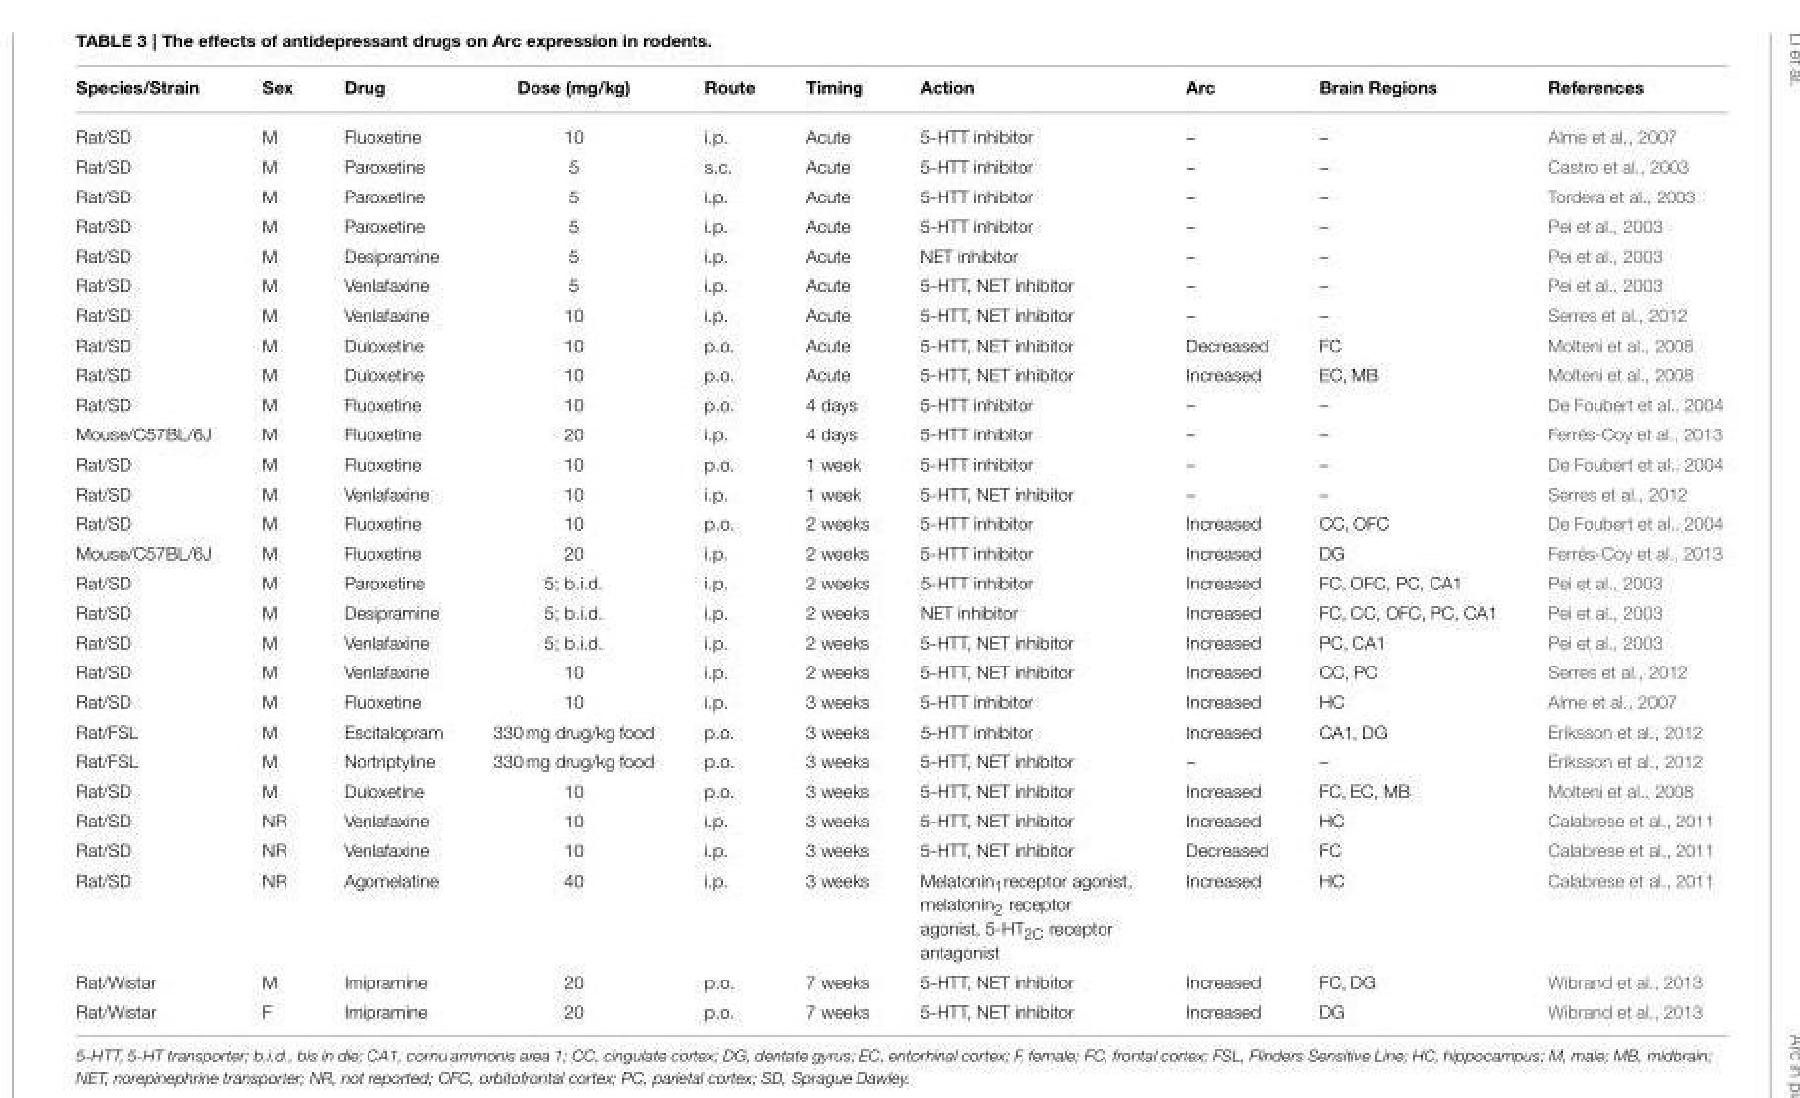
<table><thead><tr><td>Species/Strain</td><td>Sex</td><td>Drug</td><td>Dose (mg/kg)</td><td>Route</td><td>Timing</td><td>Action</td><td>Arc</td><td>Brain Regions</td><td>References</td></tr></thead><tbody><tr><td>Rat/SD</td><td>M</td><td>Fluoxetine</td><td>10</td><td>i.p.</td><td>Acute</td><td>5-HTT inhibitor</td><td>–</td><td>–</td><td>Alme et al., 2007</td></tr><tr><td>Rat/SD</td><td>M</td><td>Paroxetine</td><td>5</td><td>s.c.</td><td>Acute</td><td>5-HTT inhibitor</td><td>–</td><td>–</td><td>Castro et al., 2003</td></tr><tr><td>Rat/SD</td><td>M</td><td>Paroxetine</td><td>5</td><td>i.p.</td><td>Acute</td><td>5-HTT inhibitor</td><td>–</td><td>–</td><td>Tordera et al., 2003</td></tr><tr><td>Rat/SD</td><td>M</td><td>Paroxetine</td><td>5</td><td>i.p.</td><td>Acute</td><td>5-HTT inhibitor</td><td>–</td><td>–</td><td>Pei et al., 2003</td></tr><tr><td>Rat/SD</td><td>M</td><td>Desipramine</td><td>5</td><td>i.p.</td><td>Acute</td><td>NET inhibitor</td><td>–</td><td>–</td><td>Pei et al., 2003</td></tr><tr><td>Rat/SD</td><td>M</td><td>Venlafaxine</td><td>5</td><td>i.p.</td><td>Acute</td><td>5-HTT, NET inhibitor</td><td>–</td><td>–</td><td>Pei et al., 2003</td></tr><tr><td>Rat/SD</td><td>M</td><td>Venlafaxine</td><td>10</td><td>i.p.</td><td>Acute</td><td>5-HTT, NET inhibitor</td><td>–</td><td>–</td><td>Serres et al., 2012</td></tr><tr><td>Rat/SD</td><td>M</td><td>Duloxetine</td><td>10</td><td>p.o.</td><td>Acute</td><td>5-HTT, NET inhibitor</td><td>Decreased</td><td>FC</td><td>Molteni et al., 2008</td></tr><tr><td>Rat/SD</td><td>M</td><td>Duloxetine</td><td>10</td><td>p.o.</td><td>Acute</td><td>5-HTT, NET inhibitor</td><td>Increased</td><td>EC, MB</td><td>Molteni et al., 2008</td></tr><tr><td>Rat/SD</td><td>M</td><td>Fluoxetine</td><td>10</td><td>p.o.</td><td>4 days</td><td>5-HTT inhibitor</td><td>–</td><td>–</td><td>De Foubert et al., 2004</td></tr><tr><td>Mouse/C57BL/6J</td><td>M</td><td>Fluoxetine</td><td>20</td><td>i.p.</td><td>4 days</td><td>5-HTT inhibitor</td><td>–</td><td>–</td><td>Ferrés-Coy et al., 2013</td></tr><tr><td>Rat/SD</td><td>M</td><td>Fluoxetine</td><td>10</td><td>p.o.</td><td>1 week</td><td>5-HTT inhibitor</td><td>–</td><td>–</td><td>De Foubert et al., 2004</td></tr><tr><td>Rat/SD</td><td>M</td><td>Venlafaxine</td><td>10</td><td>i.p.</td><td>1 week</td><td>5-HTT, NET inhibitor</td><td>–</td><td>–</td><td>Serres et al., 2012</td></tr><tr><td>Rat/SD</td><td>M</td><td>Fluoxetine</td><td>10</td><td>p.o.</td><td>2 weeks</td><td>5-HTT inhibitor</td><td>Increased</td><td>CC, OFC</td><td>De Foubert et al., 2004</td></tr><tr><td>Mouse/C57BL/6J</td><td>M</td><td>Fluoxetine</td><td>20</td><td>i.p.</td><td>2 weeks</td><td>5-HTT inhibitor</td><td>Increased</td><td>DG</td><td>Ferrés-Coy et al., 2013</td></tr><tr><td>Rat/SD</td><td>M</td><td>Paroxetine</td><td>5; b.i.d.</td><td>i.p.</td><td>2 weeks</td><td>5-HTT inhibitor</td><td>Increased</td><td>FC, OFC, PC, CA1</td><td>Pei et al., 2003</td></tr><tr><td>Rat/SD</td><td>M</td><td>Desipramine</td><td>5; b.i.d.</td><td>i.p.</td><td>2 weeks</td><td>NET inhibitor</td><td>Increased</td><td>FC, CC, OFC, PC, CA1</td><td>Pei et al., 2003</td></tr><tr><td>Rat/SD</td><td>M</td><td>Venlafaxine</td><td>5; b.i.d.</td><td>i.p.</td><td>2 weeks</td><td>5-HTT, NET inhibitor</td><td>Increased</td><td>PC, CA1</td><td>Pei et al., 2003</td></tr><tr><td>Rat/SD</td><td>M</td><td>Venlafaxine</td><td>10</td><td>i.p.</td><td>2 weeks</td><td>5-HTT, NET inhibitor</td><td>Increased</td><td>CC, PC</td><td>Serres et al., 2012</td></tr><tr><td>Rat/SD</td><td>M</td><td>Fluoxetine</td><td>10</td><td>i.p.</td><td>3 weeks</td><td>5-HTT inhibitor</td><td>Increased</td><td>HC</td><td>Alme et al., 2007</td></tr><tr><td>Rat/FSL</td><td>M</td><td>Escitalopram</td><td>330 mg drug/kg food</td><td>p.o.</td><td>3 weeks</td><td>5-HTT inhibitor</td><td>Increased</td><td>CA1, DG</td><td>Eriksson et al., 2012</td></tr><tr><td>Rat/FSL</td><td>M</td><td>Nortriptyline</td><td>330 mg drug/kg food</td><td>p.o.</td><td>3 weeks</td><td>5-HTT, NET inhibitor</td><td>–</td><td>–</td><td>Eriksson et al., 2012</td></tr><tr><td>Rat/SD</td><td>M</td><td>Duloxetine</td><td>10</td><td>p.o.</td><td>3 weeks</td><td>5-HTT, NET inhibitor</td><td>Increased</td><td>FC, EC, MB</td><td>Molteni et al., 2008</td></tr><tr><td>Rat/SD</td><td>NR</td><td>Venlafaxine</td><td>10</td><td>i.p.</td><td>3 weeks</td><td>5-HTT, NET inhibitor</td><td>Increased</td><td>HC</td><td>Calabrese et al., 2011</td></tr><tr><td>Rat/SD</td><td>NR</td><td>Venlafaxine</td><td>10</td><td>i.p.</td><td>3 weeks</td><td>5-HTT, NET inhibitor</td><td>Decreased</td><td>FC</td><td>Calabrese et al., 2011</td></tr><tr><td>Rat/SD</td><td>NR</td><td>Agomelatine</td><td>40</td><td>i.p.</td><td>3 weeks</td><td>Melatonin<sub>1</sub>receptor agonist, melatonin<sub>2</sub> receptor agonist, 5-HT<sub>2C</sub> receptor antagonist</td><td>Increased</td><td>HC</td><td>Calabrese et al., 2011</td></tr><tr><td>Rat/Wistar</td><td>M</td><td>Imipramine</td><td>20</td><td>p.o.</td><td>7 weeks</td><td>5-HTT, NET inhibitor</td><td>Increased</td><td>FC, DG</td><td>Wibrand et al., 2013</td></tr><tr><td>Rat/Wistar</td><td>F</td><td>Imipramine</td><td>20</td><td>p.o.</td><td>7 weeks</td><td>5-HTT, NET inhibitor</td><td>Increased</td><td>DG</td><td>Wibrand et al., 2013</td></tr></tbody></table>